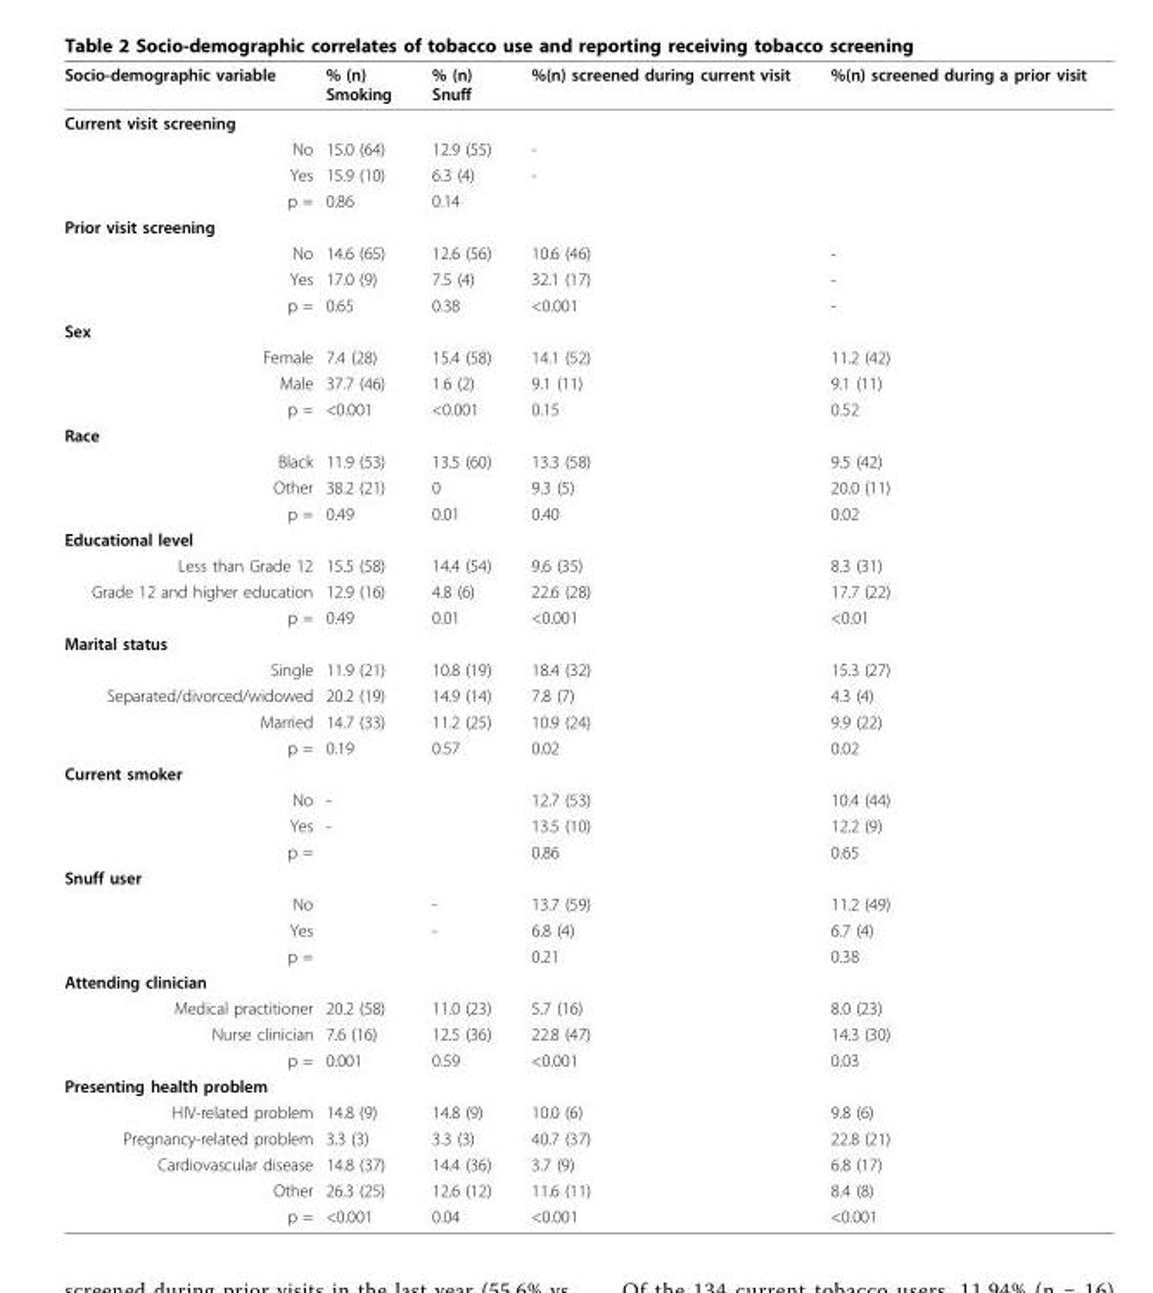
<table><thead><tr><td>Socio-demographic variable</td><td>% (n) Smoking</td><td>% (n) Snuff</td><td>%(n) screened during current visit</td><td>%(n) screened during a prior visit</td></tr></thead><tbody><tr><td colspan="5">Current visit screening</td></tr><tr><td>No</td><td>15.0 (64)</td><td>12.9 (55)</td><td>-</td><td></td></tr><tr><td>Yes</td><td>15.9 (10)</td><td>6.3 (4)</td><td>-</td><td></td></tr><tr><td>p =</td><td>0.86</td><td>0.14</td><td></td><td></td></tr><tr><td colspan="5">Prior visit screening</td></tr><tr><td>No</td><td>14.6 (65)</td><td>12.6 (56)</td><td>10.6 (46)</td><td>-</td></tr><tr><td>Yes</td><td>17.0 (9)</td><td>7.5 (4)</td><td>32.1 (17)</td><td>-</td></tr><tr><td>p =</td><td>0.65</td><td>0.38</td><td>&lt;0.001</td><td>-</td></tr><tr><td colspan="5">Sex</td></tr><tr><td>Female</td><td>7.4 (28)</td><td>15.4 (58)</td><td>14.1 (52)</td><td>11.2 (42)</td></tr><tr><td>Male</td><td>37.7 (46)</td><td>1.6 (2)</td><td>9.1 (11)</td><td>9.1 (11)</td></tr><tr><td>p =</td><td>&lt;0.001</td><td>&lt;0.001</td><td>0.15</td><td>0.52</td></tr><tr><td colspan="5">Race</td></tr><tr><td>Black</td><td>11.9 (53)</td><td>13.5 (60)</td><td>13.3 (58)</td><td>9.5 (42)</td></tr><tr><td>Other</td><td>38.2 (21)</td><td>0</td><td>9.3 (5)</td><td>20.0 (11)</td></tr><tr><td>p =</td><td>0.49</td><td>0.01</td><td>0.40</td><td>0.02</td></tr><tr><td colspan="5">Educational level</td></tr><tr><td>Less than Grade 12</td><td>15.5 (58)</td><td>14.4 (54)</td><td>9.6 (35)</td><td>8.3 (31)</td></tr><tr><td>Grade 12 and higher education</td><td>12.9 (16)</td><td>4.8 (6)</td><td>22.6 (28)</td><td>17.7 (22)</td></tr><tr><td>p =</td><td>0.49</td><td>0.01</td><td>&lt;0.001</td><td>&lt;0.01</td></tr><tr><td colspan="5">Marital status</td></tr><tr><td>Single</td><td>11.9 (21)</td><td>10.8 (19)</td><td>18.4 (32)</td><td>15.3 (27)</td></tr><tr><td>Separated/divorced/widowed</td><td>20.2 (19)</td><td>14.9 (14)</td><td>7.8 (7)</td><td>4.3 (4)</td></tr><tr><td>Married</td><td>14.7 (33)</td><td>11.2 (25)</td><td>10.9 (24)</td><td>9.9 (22)</td></tr><tr><td>p =</td><td>0.19</td><td>0.57</td><td>0.02</td><td>0.02</td></tr><tr><td colspan="5">Current smoker</td></tr><tr><td>No</td><td>-</td><td></td><td>12.7 (53)</td><td>10.4 (44)</td></tr><tr><td>Yes</td><td>-</td><td></td><td>13.5 (10)</td><td>12.2 (9)</td></tr><tr><td>p =</td><td></td><td></td><td>0.86</td><td>0.65</td></tr><tr><td colspan="5">Snuff user</td></tr><tr><td>No</td><td></td><td>-</td><td>13.7 (59)</td><td>11.2 (49)</td></tr><tr><td>Yes</td><td></td><td>-</td><td>6.8 (4)</td><td>6.7 (4)</td></tr><tr><td>p =</td><td></td><td></td><td>0.21</td><td>0.38</td></tr><tr><td colspan="5">Attending clinician</td></tr><tr><td>Medical practitioner</td><td>20.2 (58)</td><td>11.0 (23)</td><td>5.7 (16)</td><td>8.0 (23)</td></tr><tr><td>Nurse clinician</td><td>7.6 (16)</td><td>12.5 (36)</td><td>22.8 (47)</td><td>14.3 (30)</td></tr><tr><td>p =</td><td>0.001</td><td>0.59</td><td>&lt;0.001</td><td>0.03</td></tr><tr><td colspan="5">Presenting health problem</td></tr><tr><td>HIV-related problem</td><td>14.8 (9)</td><td>14.8 (9)</td><td>10.0 (6)</td><td>9.8 (6)</td></tr><tr><td>Pregnancy-related problem</td><td>3.3 (3)</td><td>3.3 (3)</td><td>40.7 (37)</td><td>22.8 (21)</td></tr><tr><td>Cardiovascular disease</td><td>14.8 (37)</td><td>14.4 (36)</td><td>3.7 (9)</td><td>6.8 (17)</td></tr><tr><td>Other</td><td>26.3 (25)</td><td>12.6 (12)</td><td>11.6 (11)</td><td>8.4 (8)</td></tr><tr><td>p =</td><td>&lt;0.001</td><td>0.04</td><td>&lt;0.001</td><td>&lt;0.001</td></tr></tbody></table>